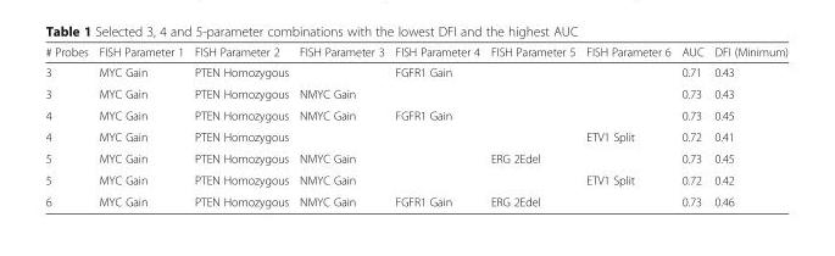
<table><thead><tr><td># Probes</td><td>FISH Parameter 1</td><td>FISH Parameter 2</td><td>FISH Parameter 3</td><td>FISH Parameter 4</td><td>FISH Parameter 5</td><td>FISH Parameter 6</td><td>AUC</td><td>DFI (Minimum)</td></tr></thead><tbody><tr><td>3</td><td>MYC Gain</td><td>PTEN Homozygous</td><td></td><td>FGFR1 Gain</td><td></td><td></td><td>0.71</td><td>0.43</td></tr><tr><td>3</td><td>MYC Gain</td><td>PTEN Homozygous</td><td>NMYC Gain</td><td></td><td></td><td></td><td>0.73</td><td>0.43</td></tr><tr><td>4</td><td>MYC Gain</td><td>PTEN Homozygous</td><td>NMYC Gain</td><td>FGFR1 Gain</td><td></td><td></td><td>0.73</td><td>0.45</td></tr><tr><td>4</td><td>MYC Gain</td><td>PTEN Homozygous</td><td></td><td></td><td></td><td>ETV1 Split</td><td>0.72</td><td>0.41</td></tr><tr><td>5</td><td>MYC Gain</td><td>PTEN Homozygous</td><td>NMYC Gain</td><td></td><td>ERG 2Edel</td><td></td><td>0.73</td><td>0.45</td></tr><tr><td>5</td><td>MYC Gain</td><td>PTEN Homozygous</td><td>NMYC Gain</td><td></td><td></td><td>ETV1 Split</td><td>0.72</td><td>0.42</td></tr><tr><td>6</td><td>MYC Gain</td><td>PTEN Homozygous</td><td>NMYC Gain</td><td>FGFR1 Gain</td><td>ERG 2Edel</td><td></td><td>0.73</td><td>0.46</td></tr></tbody></table>